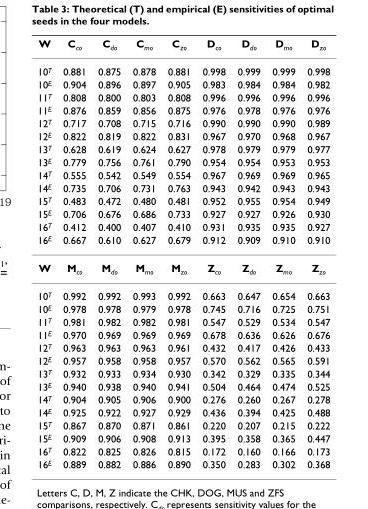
<table><thead><tr><td>W</td><td>C<sub>co</sub></td><td>C<sub>do</sub></td><td>C<sub>mo</sub></td><td>C<sub>zo</sub></td><td>D<sub>co</sub></td><td>D<sub>do</sub></td><td>D<sub>mo</sub></td><td>D<sub>zo</sub></td></tr></thead><tbody><tr><td>10<sup>T</sup></td><td>0.881</td><td>0.875</td><td>0.878</td><td>0.881</td><td>0.998</td><td>0.999</td><td>0.999</td><td>0.998</td></tr><tr><td>10<sup>E</sup></td><td>0.904</td><td>0.896</td><td>0.897</td><td>0.905</td><td>0.983</td><td>0.984</td><td>0.984</td><td>0.982</td></tr><tr><td>11<sup>T</sup></td><td>0.808</td><td>0.800</td><td>0.803</td><td>0.808</td><td>0.996</td><td>0.996</td><td>0.996</td><td>0.996</td></tr><tr><td>11<sup>E</sup></td><td>0.876</td><td>0.859</td><td>0.856</td><td>0.875</td><td>0.976</td><td>0.978</td><td>0.976</td><td>0.976</td></tr><tr><td>12<sup>T</sup></td><td>0.717</td><td>0.708</td><td>0.715</td><td>0.716</td><td>0.990</td><td>0.990</td><td>0.990</td><td>0.989</td></tr><tr><td>12<sup>E</sup></td><td>0.822</td><td>0.819</td><td>0.822</td><td>0.831</td><td>0.967</td><td>0.970</td><td>0.968</td><td>0.967</td></tr><tr><td>13<sup>T</sup></td><td>0.628</td><td>0.619</td><td>0.624</td><td>0.627</td><td>0.978</td><td>0.979</td><td>0.979</td><td>0.977</td></tr><tr><td>13<sup>E</sup></td><td>0.779</td><td>0.756</td><td>0.761</td><td>0.790</td><td>0.954</td><td>0.954</td><td>0.953</td><td>0.953</td></tr><tr><td>14<sup>T</sup></td><td>0.555</td><td>0.542</td><td>0.549</td><td>0.554</td><td>0.967</td><td>0.969</td><td>0.969</td><td>0.965</td></tr><tr><td>14<sup>E</sup></td><td>0.735</td><td>0.706</td><td>0.731</td><td>0.763</td><td>0.943</td><td>0.942</td><td>0.943</td><td>0.943</td></tr><tr><td>15<sup>T</sup></td><td>0.483</td><td>0.472</td><td>0.480</td><td>0.481</td><td>0.952</td><td>0.955</td><td>0.954</td><td>0.949</td></tr><tr><td>15<sup>E</sup></td><td>0.706</td><td>0.676</td><td>0.686</td><td>0.733</td><td>0.927</td><td>0.927</td><td>0.926</td><td>0.930</td></tr><tr><td>16<sup>T</sup></td><td>0.412</td><td>0.400</td><td>0.407</td><td>0.410</td><td>0.931</td><td>0.935</td><td>0.935</td><td>0.927</td></tr><tr><td>16<sup>E</sup></td><td>0.667</td><td>0.610</td><td>0.627</td><td>0.679</td><td>0.912</td><td>0.909</td><td>0.910</td><td>0.910</td></tr><tr><td>W</td><td>M<sub>co</sub></td><td>M<sub>do</sub></td><td>M<sub>mo</sub></td><td>M<sub>zo</sub></td><td>Z<sub>co</sub></td><td>Z<sub>do</sub></td><td>Z<sub>mo</sub></td><td>Z<sub>zo</sub></td></tr><tr><td>10<sup>T</sup></td><td>0.992</td><td>0.992</td><td>0.993</td><td>0.992</td><td>0.663</td><td>0.647</td><td>0.654</td><td>0.663</td></tr><tr><td>10<sup>E</sup></td><td>0.978</td><td>0.978</td><td>0.979</td><td>0.978</td><td>0.745</td><td>0.716</td><td>0.725</td><td>0.751</td></tr><tr><td>11<sup>T</sup></td><td>0.981</td><td>0.982</td><td>0.982</td><td>0.981</td><td>0.547</td><td>0.529</td><td>0.534</td><td>0.547</td></tr><tr><td>11<sup>E</sup></td><td>0.970</td><td>0.969</td><td>0.969</td><td>0.969</td><td>0.678</td><td>0.636</td><td>0.626</td><td>0.676</td></tr><tr><td>12<sup>T</sup></td><td>0.963</td><td>0.963</td><td>0.963</td><td>0.961</td><td>0.432</td><td>0.417</td><td>0.426</td><td>0.433</td></tr><tr><td>12<sup>E</sup></td><td>0.957</td><td>0.958</td><td>0.958</td><td>0.957</td><td>0.570</td><td>0.562</td><td>0.565</td><td>0.591</td></tr><tr><td>13<sup>T</sup></td><td>0.932</td><td>0.933</td><td>0.934</td><td>0.930</td><td>0.342</td><td>0.329</td><td>0.335</td><td>0.344</td></tr><tr><td>13<sup>E</sup></td><td>0.940</td><td>0.938</td><td>0.940</td><td>0.941</td><td>0.504</td><td>0.464</td><td>0.474</td><td>0.525</td></tr><tr><td>14<sup>T</sup></td><td>0.904</td><td>0.905</td><td>0.906</td><td>0.900</td><td>0.276</td><td>0.260</td><td>0.267</td><td>0.278</td></tr><tr><td>14<sup>E</sup></td><td>0.925</td><td>0.922</td><td>0.927</td><td>0.929</td><td>0.436</td><td>0.394</td><td>0.425</td><td>0.488</td></tr><tr><td>15<sup>T</sup></td><td>0.867</td><td>0.870</td><td>0.871</td><td>0.861</td><td>0.220</td><td>0.207</td><td>0.215</td><td>0.222</td></tr><tr><td>15<sup>E</sup></td><td>0.909</td><td>0.906</td><td>0.908</td><td>0.913</td><td>0.395</td><td>0.358</td><td>0.365</td><td>0.447</td></tr><tr><td>16<sup>T</sup></td><td>0.822</td><td>0.825</td><td>0.826</td><td>0.815</td><td>0.172</td><td>0.160</td><td>0.166</td><td>0.173</td></tr><tr><td>16<sup>E</sup></td><td>0.889</td><td>0.882</td><td>0.886</td><td>0.890</td><td>0.350</td><td>0.283</td><td>0.302</td><td>0.368</td></tr></tbody></table>